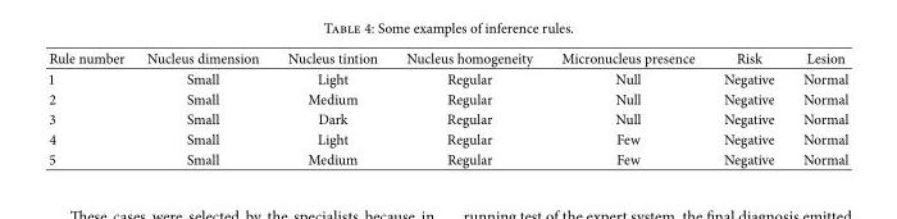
<table><thead><tr><td>Rule number</td><td>Nucleus dimension</td><td>Nucleus tintion</td><td>Nucleus homogeneity</td><td>Micronucleus presence</td><td>Risk</td><td>Lesion</td></tr></thead><tbody><tr><td>1</td><td>Small</td><td>Light</td><td>Regular</td><td>Null</td><td>Negative</td><td>Normal</td></tr><tr><td>2</td><td>Small</td><td>Medium</td><td>Regular</td><td>Null</td><td>Negative</td><td>Normal</td></tr><tr><td>3</td><td>Small</td><td>Dark</td><td>Regular</td><td>Null</td><td>Negative</td><td>Normal</td></tr><tr><td>4</td><td>Small</td><td>Light</td><td>Regular</td><td>Few</td><td>Negative</td><td>Normal</td></tr><tr><td>5</td><td>Small</td><td>Medium</td><td>Regular</td><td>Few</td><td>Negative</td><td>Normal</td></tr></tbody></table>